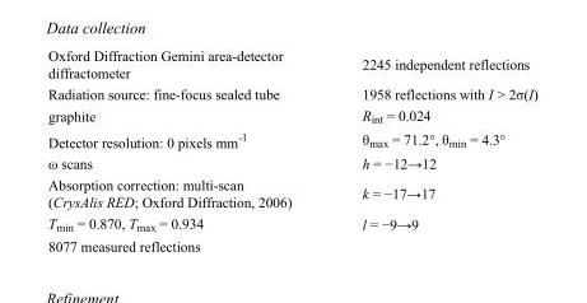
<table><tbody><tr><td>Oxford Diffraction Gemini area-detector diffractometer</td><td>2245 independent reflections</td></tr><tr><td>Radiation source: fine-focus sealed tube</td><td>1958 reflections with I &gt; 2σ(I)</td></tr><tr><td>graphite</td><td>R<sub>int</sub> = 0.024</td></tr><tr><td>Detector resolution: 0 pixels mm<sup>-1</sup></td><td>θ<sub>max</sub> = 71.2°, θ<sub>min</sub> = 4.3°</td></tr><tr><td>ω scans</td><td>h = −12→12</td></tr><tr><td>Absorption correction: multi-scan (CrysAlis RED; Oxford Diffraction, 2006)</td><td>k = −17→17</td></tr><tr><td>T<sub>min</sub> = 0.870, T<sub>max</sub> = 0.934</td><td>l = −9→9</td></tr><tr><td>8077 measured reflections</td><td></td></tr></tbody></table>